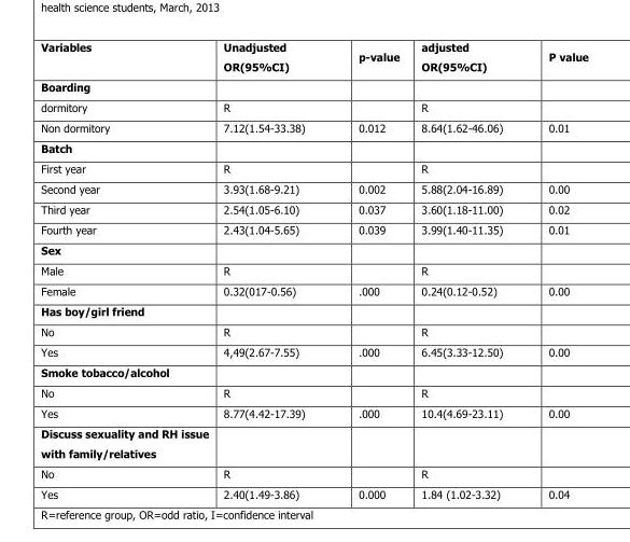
<table><thead><tr><td>Variables</td><td>Unadjusted OR(95%CI)</td><td>p-value</td><td>adjusted OR(95%CI)</td><td>P value</td></tr></thead><tbody><tr><td colspan="5">Boarding</td></tr><tr><td>dormitory</td><td>R</td><td></td><td>R</td><td></td></tr><tr><td>Non dormitory</td><td>7.12(1.54-33.38)</td><td>0.012</td><td>8.64(1.62-46.06)</td><td>0.01</td></tr><tr><td colspan="5">Batch</td></tr><tr><td>First year</td><td>R</td><td></td><td>R</td><td></td></tr><tr><td>Second year</td><td>3.93(1.68-9.21)</td><td>0.002</td><td>5.88(2.04-16.89)</td><td>0.00</td></tr><tr><td>Third year</td><td>2.54(1.05-6.10)</td><td>0.037</td><td>3.60(1.18-11.00)</td><td>0.02</td></tr><tr><td>Fourth year</td><td>2.43(1.04-5.65)</td><td>0.039</td><td>3.99(1.40-11.35)</td><td>0.01</td></tr><tr><td colspan="5">Sex</td></tr><tr><td>Male</td><td>R</td><td></td><td>R</td><td></td></tr><tr><td>Female</td><td>0.32(017-0.56)</td><td>.000</td><td>0.24(0.12-0.52)</td><td>0.00</td></tr><tr><td colspan="5">Has boy/girl friend</td></tr><tr><td>No</td><td>R</td><td></td><td>R</td><td></td></tr><tr><td>Yes</td><td>4,49(2.67-7.55)</td><td>.000</td><td>6.45(3.33-12.50)</td><td>0.00</td></tr><tr><td colspan="5">Smoke tobacco/alcohol</td></tr><tr><td>No</td><td>R</td><td></td><td>R</td><td></td></tr><tr><td>Yes</td><td>8.77(4.42-17.39)</td><td>.000</td><td>10.4(4.69-23.11)</td><td>0.00</td></tr><tr><td colspan="5">Discuss sexuality and RH issue with family/relatives</td></tr><tr><td>No</td><td>R</td><td></td><td>R</td><td></td></tr><tr><td>Yes</td><td>2.40(1.49-3.86)</td><td>0.000</td><td>1.84 (1.02-3.32)</td><td>0.04</td></tr></tbody></table>